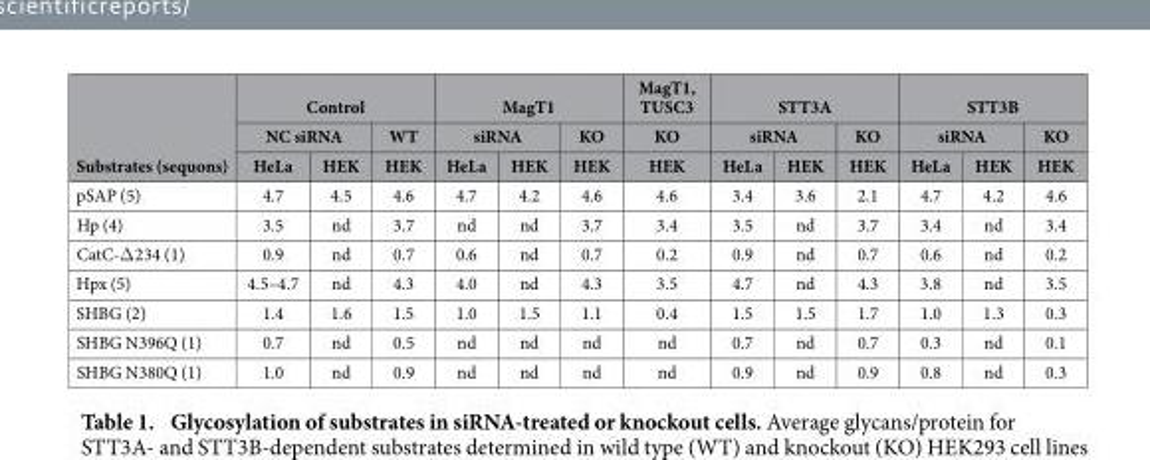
<table><thead><tr><td rowspan="3">Substrates (sequons)</td><td colspan="3">Control</td><td colspan="3">MagT1</td><td rowspan="3">MagT1, TUSC3 KO HEK</td><td colspan="3">STT3A</td><td colspan="3">STT3B</td></tr><tr><td colspan="2">NC siRNA</td><td rowspan="2">WT HEK</td><td colspan="2">siRNA</td><td rowspan="2">KO HEK</td><td colspan="2">siRNA</td><td rowspan="2">KO HEK</td><td colspan="2">siRNA</td><td rowspan="2">KO HEK</td></tr><tr><td>HeLa</td><td>HEK</td><td>HeLa</td><td>HEK</td><td>HeLa</td><td>HEK</td><td>HeLa</td><td>HEK</td></tr></thead><tbody><tr><td>pSAP (5)</td><td>4.7</td><td>4.5</td><td>4.6</td><td>4.7</td><td>4.2</td><td>4.6</td><td>4.6</td><td>3.4</td><td>3.6</td><td>2.1</td><td>4.7</td><td>4.2</td><td>4.6</td></tr><tr><td>Hp (4)</td><td>3.5</td><td>nd</td><td>3.7</td><td>nd</td><td>nd</td><td>3.7</td><td>3.4</td><td>3.5</td><td>nd</td><td>3.7</td><td>3.4</td><td>nd</td><td>3.4</td></tr><tr><td>CatC-Δ 234 (1)</td><td>0.9</td><td>nd</td><td>0.7</td><td>0.6</td><td>nd</td><td>0.7</td><td>0.2</td><td>0.9</td><td>nd</td><td>0.7</td><td>0.6</td><td>nd</td><td>0.2</td></tr><tr><td>Hpx (5)</td><td>4.5–4.7</td><td>nd</td><td>4.3</td><td>4.0</td><td>nd</td><td>4.3</td><td>3.5</td><td>4.7</td><td>nd</td><td>4.3</td><td>3.8</td><td>nd</td><td>3.5</td></tr><tr><td>SHBG (2)</td><td>1.4</td><td>1.6</td><td>1.5</td><td>1.0</td><td>1.5</td><td>1.1</td><td>0.4</td><td>1.5</td><td>1.5</td><td>1.7</td><td>1.0</td><td>1.3</td><td>0.3</td></tr><tr><td>SHBG N396Q (1)</td><td>0.7</td><td>nd</td><td>0.5</td><td>nd</td><td>nd</td><td>nd</td><td>nd</td><td>0.7</td><td>nd</td><td>0.7</td><td>0.3</td><td>nd</td><td>0.1</td></tr><tr><td>SHBG N380Q (1)</td><td>1.0</td><td>nd</td><td>0.9</td><td>nd</td><td>nd</td><td>nd</td><td>nd</td><td>0.9</td><td>nd</td><td>0.9</td><td>0.8</td><td>nd</td><td>0.3</td></tr></tbody></table>